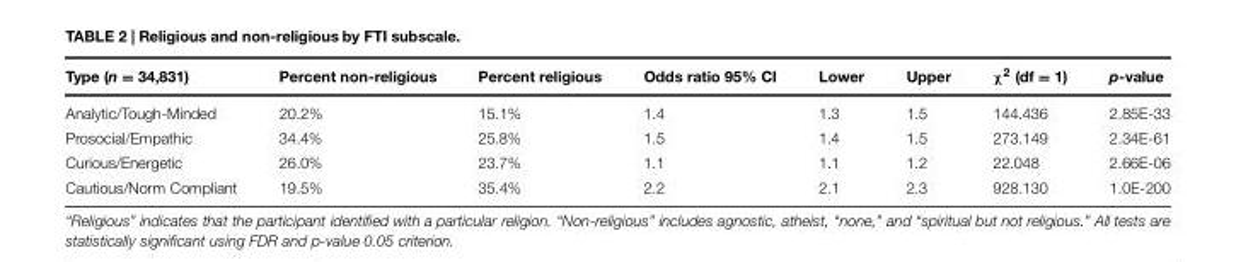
<table><thead><tr><td>Type (n = 34,831)</td><td>Percent non-religious</td><td>Percent religious</td><td>Odds ratio 95% CI</td><td>Lower</td><td>Upper</td><td>χ<sup>2</sup> (df = 1)</td><td>p-value</td></tr></thead><tbody><tr><td>Analytic/Tough-Minded</td><td>20.2%</td><td>15.1%</td><td>1.4</td><td>1.3</td><td>1.5</td><td>144.436</td><td>2.85E-33</td></tr><tr><td>Prosocial/Empathic</td><td>34.4%</td><td>25.8%</td><td>1.5</td><td>1.4</td><td>1.5</td><td>273.149</td><td>2.34E-61</td></tr><tr><td>Curious/Energetic</td><td>26.0%</td><td>23.7%</td><td>1.1</td><td>1.1</td><td>1.2</td><td>22.048</td><td>2.66E-06</td></tr><tr><td>Cautious/Norm Compliant</td><td>19.5%</td><td>35.4%</td><td>2.2</td><td>2.1</td><td>2.3</td><td>928.130</td><td>1.0E-200</td></tr></tbody></table>